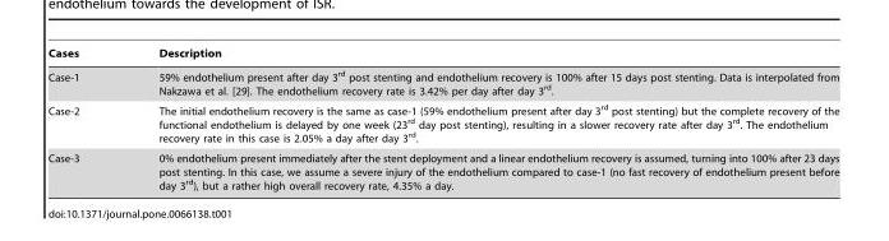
<table><thead><tr><td>Cases</td><td>Description</td></tr></thead><tbody><tr><td>Case-1</td><td>59% endothelium present after day 3<sup>rd</sup> post stenting and endothelium recovery is 100% after 15 days post stenting. Data is interpolated from Nakzawa et al. [29]. The endothelium recovery rate is 3.42% per day after day 3<sup>rd</sup>.</td></tr><tr><td>Case-2</td><td>The initial endothelium recovery is the same as case-1 (59% endothelium present after day 3<sup>rd</sup> post stenting) but the complete recovery of the functional endothelium is delayed by one week (23<sup>rd</sup> day post stenting), resulting in a slower recovery rate after day 3<sup>rd</sup>. The endothelium recovery rate in this case is 2.05% a day after day 3<sup>rd</sup>.</td></tr><tr><td>Case-3</td><td>0% endothelium present immediately after the stent deployment and a linear endothelium recovery is assumed, turning into 100% after 23 days post stenting. In this case, we assume a severe injury of the endothelium compared to case-1 (no fast recovery of endothelium present before day 3<sup>rd</sup>), but a rather high overall recovery rate, 4.35% a day.</td></tr></tbody></table>